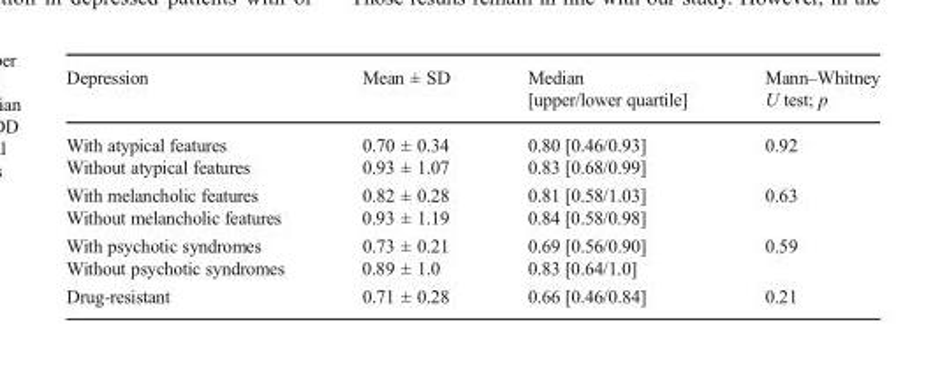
<table><thead><tr><td>Depression</td><td>Mean ± SD</td><td>Median [upper/lower quartile]</td><td>Mann–Whitney U test; p</td></tr></thead><tbody><tr><td>With atypical features</td><td>0.70 ± 0.34</td><td>0.80 [0.46/0.93]</td><td rowspan="2">0.92</td></tr><tr><td>Without atypical features</td><td>0.93 ± 1.07</td><td>0.83 [0.68/0.99]</td></tr><tr><td>With melancholic features</td><td>0.82 ± 0.28</td><td>0.81 [0.58/1.03]</td><td rowspan="2">0.63</td></tr><tr><td>Without melancholic features</td><td>0.93 ± 1.19</td><td>0.84 [0.58/0.98]</td></tr><tr><td>With psychotic syndromes</td><td>0.73 ± 0.21</td><td>0.69 [0.56/0.90]</td><td rowspan="2">0.59</td></tr><tr><td>Without psychotic syndromes</td><td>0.89 ± 1.0</td><td>0.83 [0.64/1.0]</td></tr><tr><td>Drug-resistant</td><td>0.71 ± 0.28</td><td>0.66 [0.46/0.84]</td><td>0.21</td></tr></tbody></table>